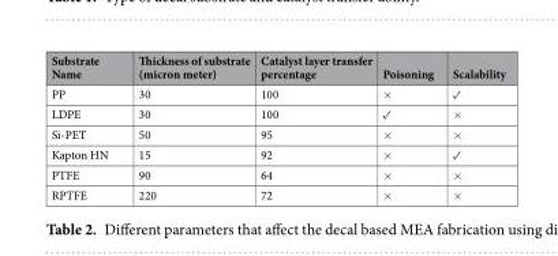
<table><thead><tr><td>Substrate Name</td><td>Thickness of substrate (micron meter)</td><td>Catalyst layer transfer percentage</td><td>Poisoning</td><td>Scalability</td></tr></thead><tbody><tr><td>PP</td><td>30</td><td>100</td><td>×</td><td>✓</td></tr><tr><td>LDPE</td><td>30</td><td>100</td><td>✓</td><td>×</td></tr><tr><td>Si-PET</td><td>50</td><td>95</td><td>×</td><td>×</td></tr><tr><td>Kapton HN</td><td>15</td><td>92</td><td>×</td><td>✓</td></tr><tr><td>PTFE</td><td>90</td><td>64</td><td>×</td><td>×</td></tr><tr><td>RPTFE</td><td>220</td><td>72</td><td>×</td><td>×</td></tr></tbody></table>